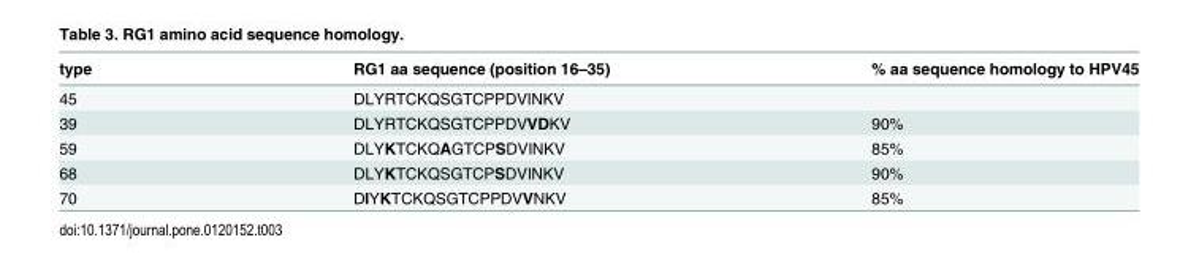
<table><thead><tr><td>type</td><td>RG1 aa sequence (position 16–35)</td><td>% aa sequence homology to HPV45</td></tr></thead><tbody><tr><td>45</td><td>DLYRTCKQSGTCPPDVINKV</td><td></td></tr><tr><td>39</td><td>DLYRTCKQSGTCPPDVVDKV</td><td>90%</td></tr><tr><td>59</td><td>DLYKTCKQAGTCPSDVINKV</td><td>85%</td></tr><tr><td>68</td><td>DLYKTCKQSGTCPSDVINKV</td><td>90%</td></tr><tr><td>70</td><td>DIYKTCKQSGTCPPDVVNKV</td><td>85%</td></tr></tbody></table>